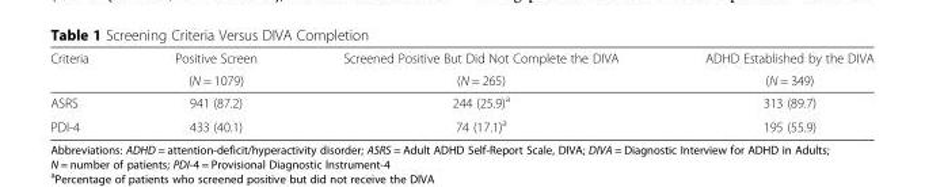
<table><thead><tr><td rowspan="2">Criteria</td><td rowspan="2">Positive Screen (N = 1079)</td><td rowspan="2">Screened Positive But Did Not Complete the DIVA (N = 265)</td><td rowspan="2">ADHD Established by the DIVA (N = 349)</td></tr><tr></tr></thead><tbody><tr><td>ASRS</td><td>941 (87.2)</td><td>244 (25.9)<sup>a</sup></td><td>313 (89.7)</td></tr><tr><td>PDI-4</td><td>433 (40.1)</td><td>74 (17.1)<sup>a</sup></td><td>195 (55.9)</td></tr></tbody></table>